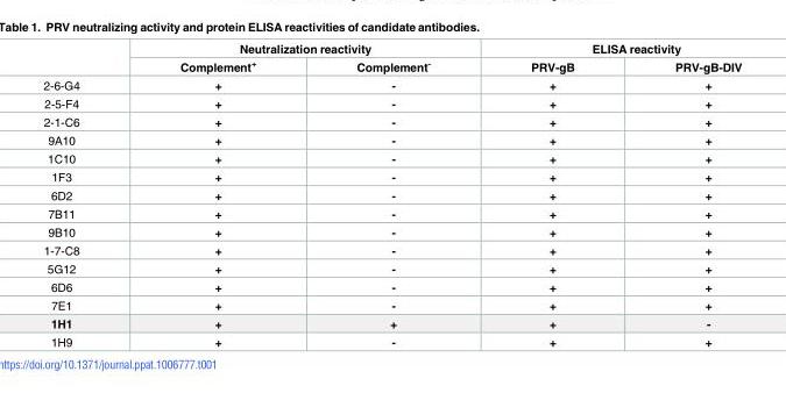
<table><thead><tr><td rowspan="2"></td><td colspan="2">Neutralization reactivity</td><td colspan="2">ELISA reactivity</td></tr><tr><td>Complement<sup>+</sup></td><td>Complement<sup>-</sup></td><td>PRV-gB</td><td>PRV-gB-DIV</td></tr></thead><tbody><tr><td>2-6-G4</td><td>+</td><td>-</td><td>+</td><td>+</td></tr><tr><td>2-5-F4</td><td>+</td><td>-</td><td>+</td><td>+</td></tr><tr><td>2-1-C6</td><td>+</td><td>-</td><td>+</td><td>+</td></tr><tr><td>9A10</td><td>+</td><td>-</td><td>+</td><td>+</td></tr><tr><td>1C10</td><td>+</td><td>-</td><td>+</td><td>+</td></tr><tr><td>1F3</td><td>+</td><td>-</td><td>+</td><td>+</td></tr><tr><td>6D2</td><td>+</td><td>-</td><td>+</td><td>+</td></tr><tr><td>7B11</td><td>+</td><td>-</td><td>+</td><td>+</td></tr><tr><td>9B10</td><td>+</td><td>-</td><td>+</td><td>+</td></tr><tr><td>1-7-C8</td><td>+</td><td>-</td><td>+</td><td>+</td></tr><tr><td>5G12</td><td>+</td><td>-</td><td>+</td><td>+</td></tr><tr><td>6D6</td><td>+</td><td>-</td><td>+</td><td>+</td></tr><tr><td>7E1</td><td>+</td><td>-</td><td>+</td><td>+</td></tr><tr><td>1H1</td><td>+</td><td>+</td><td>+</td><td>-</td></tr><tr><td>1H9</td><td>+</td><td>-</td><td>+</td><td>+</td></tr></tbody></table>